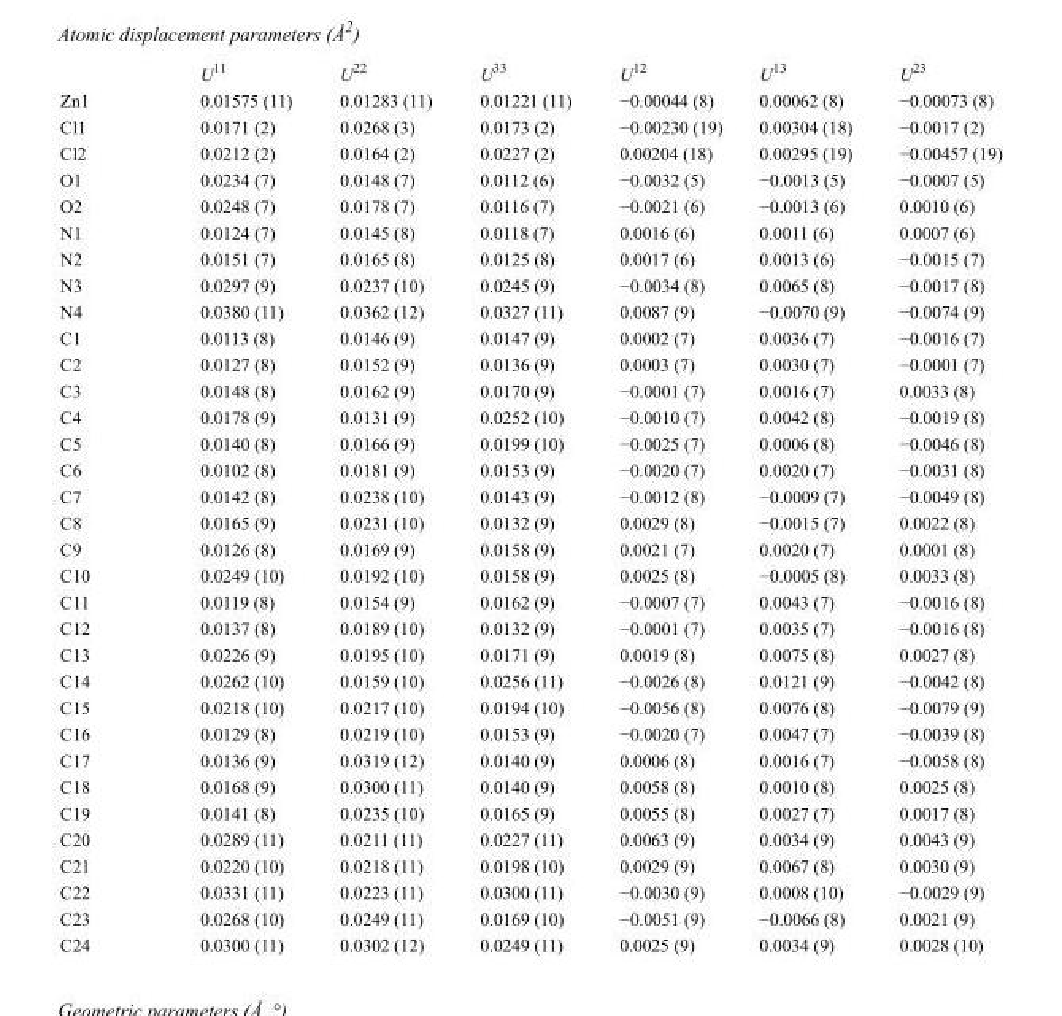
<table><thead><tr><td></td><td>U<sup>11</sup></td><td>U<sup>22</sup></td><td>U<sup>33</sup></td><td>U<sup>12</sup></td><td>U<sup>13</sup></td><td>U<sup>23</sup></td></tr></thead><tbody><tr><td>Zn1</td><td>0.01575 (11)</td><td>0.01283 (11)</td><td>0.01221 (11)</td><td>−0.00044 (8)</td><td>0.00062 (8)</td><td>−0.00073 (8)</td></tr><tr><td>Cl1</td><td>0.0171 (2)</td><td>0.0268 (3)</td><td>0.0173 (2)</td><td>−0.00230 (19)</td><td>0.00304 (18)</td><td>−0.0017 (2)</td></tr><tr><td>Cl2</td><td>0.0212 (2)</td><td>0.0164 (2)</td><td>0.0227 (2)</td><td>0.00204 (18)</td><td>0.00295 (19)</td><td>−0.00457 (19)</td></tr><tr><td>O1</td><td>0.0234 (7)</td><td>0.0148 (7)</td><td>0.0112 (6)</td><td>−0.0032 (5)</td><td>−0.0013 (5)</td><td>−0.0007 (5)</td></tr><tr><td>O2</td><td>0.0248 (7)</td><td>0.0178 (7)</td><td>0.0116 (7)</td><td>−0.0021 (6)</td><td>−0.0013 (6)</td><td>0.0010 (6)</td></tr><tr><td>N1</td><td>0.0124 (7)</td><td>0.0145 (8)</td><td>0.0118 (7)</td><td>0.0016 (6)</td><td>0.0011 (6)</td><td>0.0007 (6)</td></tr><tr><td>N2</td><td>0.0151 (7)</td><td>0.0165 (8)</td><td>0.0125 (8)</td><td>0.0017 (6)</td><td>0.0013 (6)</td><td>−0.0015 (7)</td></tr><tr><td>N3</td><td>0.0297 (9)</td><td>0.0237 (10)</td><td>0.0245 (9)</td><td>−0.0034 (8)</td><td>0.0065 (8)</td><td>−0.0017 (8)</td></tr><tr><td>N4</td><td>0.0380 (11)</td><td>0.0362 (12)</td><td>0.0327 (11)</td><td>0.0087 (9)</td><td>−0.0070 (9)</td><td>−0.0074 (9)</td></tr><tr><td>C1</td><td>0.0113 (8)</td><td>0.0146 (9)</td><td>0.0147 (9)</td><td>0.0002 (7)</td><td>0.0036 (7)</td><td>−0.0016 (7)</td></tr><tr><td>C2</td><td>0.0127 (8)</td><td>0.0152 (9)</td><td>0.0136 (9)</td><td>0.0003 (7)</td><td>0.0030 (7)</td><td>−0.0001 (7)</td></tr><tr><td>C3</td><td>0.0148 (8)</td><td>0.0162 (9)</td><td>0.0170 (9)</td><td>−0.0001 (7)</td><td>0.0016 (7)</td><td>0.0033 (8)</td></tr><tr><td>C4</td><td>0.0178 (9)</td><td>0.0131 (9)</td><td>0.0252 (10)</td><td>−0.0010 (7)</td><td>0.0042 (8)</td><td>−0.0019 (8)</td></tr><tr><td>C5</td><td>0.0140 (8)</td><td>0.0166 (9)</td><td>0.0199 (10)</td><td>−0.0025 (7)</td><td>0.0006 (8)</td><td>−0.0046 (8)</td></tr><tr><td>C6</td><td>0.0102 (8)</td><td>0.0181 (9)</td><td>0.0153 (9)</td><td>−0.0020 (7)</td><td>0.0020 (7)</td><td>−0.0031 (8)</td></tr><tr><td>C7</td><td>0.0142 (8)</td><td>0.0238 (10)</td><td>0.0143 (9)</td><td>−0.0012 (8)</td><td>−0.0009 (7)</td><td>−0.0049 (8)</td></tr><tr><td>C8</td><td>0.0165 (9)</td><td>0.0231 (10)</td><td>0.0132 (9)</td><td>0.0029 (8)</td><td>−0.0015 (7)</td><td>0.0022 (8)</td></tr><tr><td>C9</td><td>0.0126 (8)</td><td>0.0169 (9)</td><td>0.0158 (9)</td><td>0.0021 (7)</td><td>0.0020 (7)</td><td>0.0001 (8)</td></tr><tr><td>C10</td><td>0.0249 (10)</td><td>0.0192 (10)</td><td>0.0158 (9)</td><td>0.0025 (8)</td><td>−0.0005 (8)</td><td>0.0033 (8)</td></tr><tr><td>C11</td><td>0.0119 (8)</td><td>0.0154 (9)</td><td>0.0162 (9)</td><td>−0.0007 (7)</td><td>0.0043 (7)</td><td>−0.0016 (8)</td></tr><tr><td>C12</td><td>0.0137 (8)</td><td>0.0189 (10)</td><td>0.0132 (9)</td><td>−0.0001 (7)</td><td>0.0035 (7)</td><td>−0.0016 (8)</td></tr><tr><td>C13</td><td>0.0226 (9)</td><td>0.0195 (10)</td><td>0.0171 (9)</td><td>0.0019 (8)</td><td>0.0075 (8)</td><td>0.0027 (8)</td></tr><tr><td>C14</td><td>0.0262 (10)</td><td>0.0159 (10)</td><td>0.0256 (11)</td><td>−0.0026 (8)</td><td>0.0121 (9)</td><td>−0.0042 (8)</td></tr><tr><td>C15</td><td>0.0218 (10)</td><td>0.0217 (10)</td><td>0.0194 (10)</td><td>−0.0056 (8)</td><td>0.0076 (8)</td><td>−0.0079 (9)</td></tr><tr><td>C16</td><td>0.0129 (8)</td><td>0.0219 (10)</td><td>0.0153 (9)</td><td>−0.0020 (7)</td><td>0.0047 (7)</td><td>−0.0039 (8)</td></tr><tr><td>C17</td><td>0.0136 (9)</td><td>0.0319 (12)</td><td>0.0140 (9)</td><td>0.0006 (8)</td><td>0.0016 (7)</td><td>−0.0058 (8)</td></tr><tr><td>C18</td><td>0.0168 (9)</td><td>0.0300 (11)</td><td>0.0140 (9)</td><td>0.0058 (8)</td><td>0.0010 (8)</td><td>0.0025 (8)</td></tr><tr><td>C19</td><td>0.0141 (8)</td><td>0.0235 (10)</td><td>0.0165 (9)</td><td>0.0055 (8)</td><td>0.0027 (7)</td><td>0.0017 (8)</td></tr><tr><td>C20</td><td>0.0289 (11)</td><td>0.0211 (11)</td><td>0.0227 (11)</td><td>0.0063 (9)</td><td>0.0034 (9)</td><td>0.0043 (9)</td></tr><tr><td>C21</td><td>0.0220 (10)</td><td>0.0218 (11)</td><td>0.0198 (10)</td><td>0.0029 (9)</td><td>0.0067 (8)</td><td>0.0030 (9)</td></tr><tr><td>C22</td><td>0.0331 (11)</td><td>0.0223 (11)</td><td>0.0300 (11)</td><td>−0.0030 (9)</td><td>0.0008 (10)</td><td>−0.0029 (9)</td></tr><tr><td>C23</td><td>0.0268 (10)</td><td>0.0249 (11)</td><td>0.0169 (10)</td><td>−0.0051 (9)</td><td>−0.0066 (8)</td><td>0.0021 (9)</td></tr><tr><td>C24</td><td>0.0300 (11)</td><td>0.0302 (12)</td><td>0.0249 (11)</td><td>0.0025 (9)</td><td>0.0034 (9)</td><td>0.0028 (10)</td></tr></tbody></table>